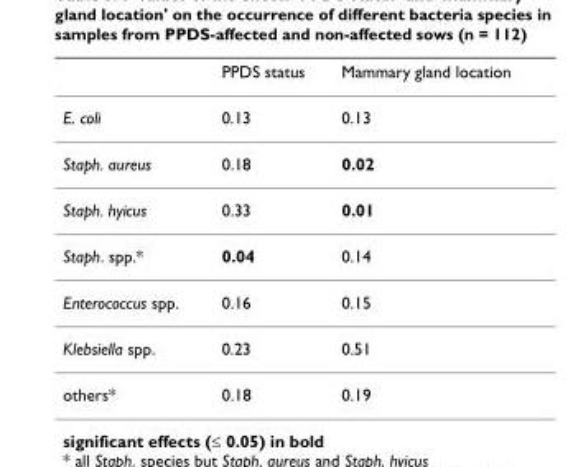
<table><thead><tr><td></td><td>PPDS status</td><td>Mammary gland location</td></tr></thead><tbody><tr><td>E. coli</td><td>0.13</td><td>0.13</td></tr><tr><td>Staph. aureus</td><td>0.18</td><td>0.02</td></tr><tr><td>Staph. hyicus</td><td>0.33</td><td>0.01</td></tr><tr><td>Staph. spp.*</td><td>0.04</td><td>0.14</td></tr><tr><td>Enterococcus spp.</td><td>0.16</td><td>0.15</td></tr><tr><td>Klebsiella spp.</td><td>0.23</td><td>0.51</td></tr><tr><td>others*</td><td>0.18</td><td>0.19</td></tr></tbody></table>